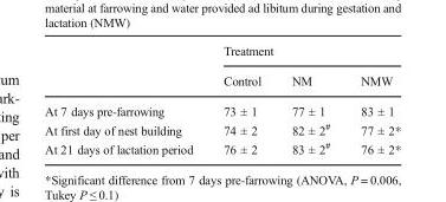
<table><thead><tr><td rowspan="2"></td><td colspan="3">Treatment</td></tr><tr><td>Control</td><td>NM</td><td>NMW</td></tr></thead><tbody><tr><td>At 7 days pre-farrowing</td><td>73 ± 1</td><td>77 ± 1</td><td>83 ± 1</td></tr><tr><td>At first day of nest building</td><td>74 ± 2</td><td>82 ± 2<sup>#</sup></td><td>77 ± 2*</td></tr><tr><td>At 21 days of lactation period</td><td>76 ± 2</td><td>83 ± 2<sup>#</sup></td><td>76 ± 2*</td></tr></tbody></table>